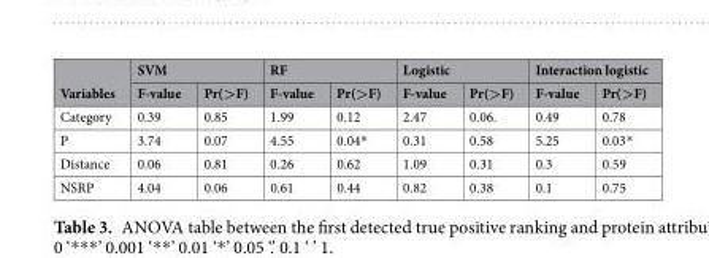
<table><thead><tr><td rowspan="2">Variables</td><td colspan="2">SVM</td><td colspan="2">RF</td><td colspan="2">Logistic</td><td colspan="2">Interaction logistic</td></tr><tr><td>F-value</td><td>Pr(&gt;F)</td><td>F-value</td><td>Pr(&gt;F)</td><td>F-value</td><td>Pr(&gt;F)</td><td>F-value</td><td>Pr(&gt;F)</td></tr></thead><tbody><tr><td>Category</td><td>0.39</td><td>0.85</td><td>1.99</td><td>0.12</td><td>2.47</td><td>0.06.</td><td>0.49</td><td>0.78</td></tr><tr><td>P</td><td>3.74</td><td>0.07</td><td>4.55</td><td>0.04*</td><td>0.31</td><td>0.58</td><td>5.25</td><td>0.03*</td></tr><tr><td>Distance</td><td>0.06</td><td>0.81</td><td>0.26</td><td>0.62</td><td>1.09</td><td>0.31</td><td>0.3</td><td>0.59</td></tr><tr><td>NSRP</td><td>4.04</td><td>0.06</td><td>0.61</td><td>0.44</td><td>0.82</td><td>0.38</td><td>0.1</td><td>0.75</td></tr></tbody></table>